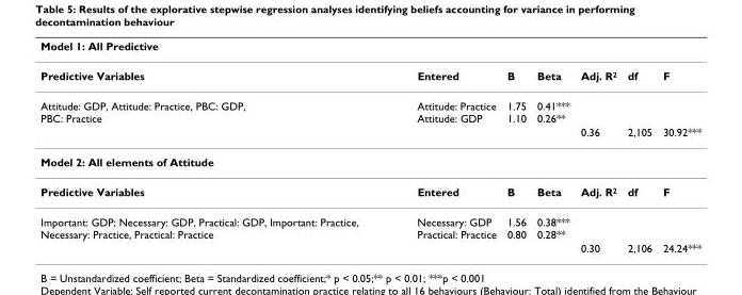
<table><thead><tr><td colspan="7">Model 1: All Predictive</td></tr><tr><td>Predictive Variables</td><td>Entered</td><td>B</td><td>Beta</td><td>Adj. R<sup>2</sup></td><td>df</td><td>F</td></tr></thead><tbody><tr><td rowspan="2">Attitude: GDP, Attitude: Practice, PBC: GDP, PBC: Practice</td><td>Attitude: Practice Attitude: GDP</td><td>1.75 1.10</td><td>0.41*** 0.26**</td><td></td><td></td><td></td></tr><tr><td></td><td></td><td></td><td>0.36</td><td>2,105</td><td>30.92***</td></tr><tr><td colspan="7">Model 2: All elements of Attitude</td></tr><tr><td>Predictive Variables</td><td>Entered</td><td>B</td><td>Beta</td><td>Adj. R<sup>2</sup></td><td>df</td><td>F</td></tr><tr><td rowspan="2">Important: GDP; Necessary: GDP, Practical: GDP, Important: Practice, Necessary: Practice, Practical: Practice</td><td>Necessary: GDP Practical: Practice</td><td>1.56 0.80</td><td>0.38*** 0.28**</td><td></td><td></td><td></td></tr><tr><td></td><td></td><td></td><td>0.30</td><td>2,106</td><td>24.24***</td></tr></tbody></table>